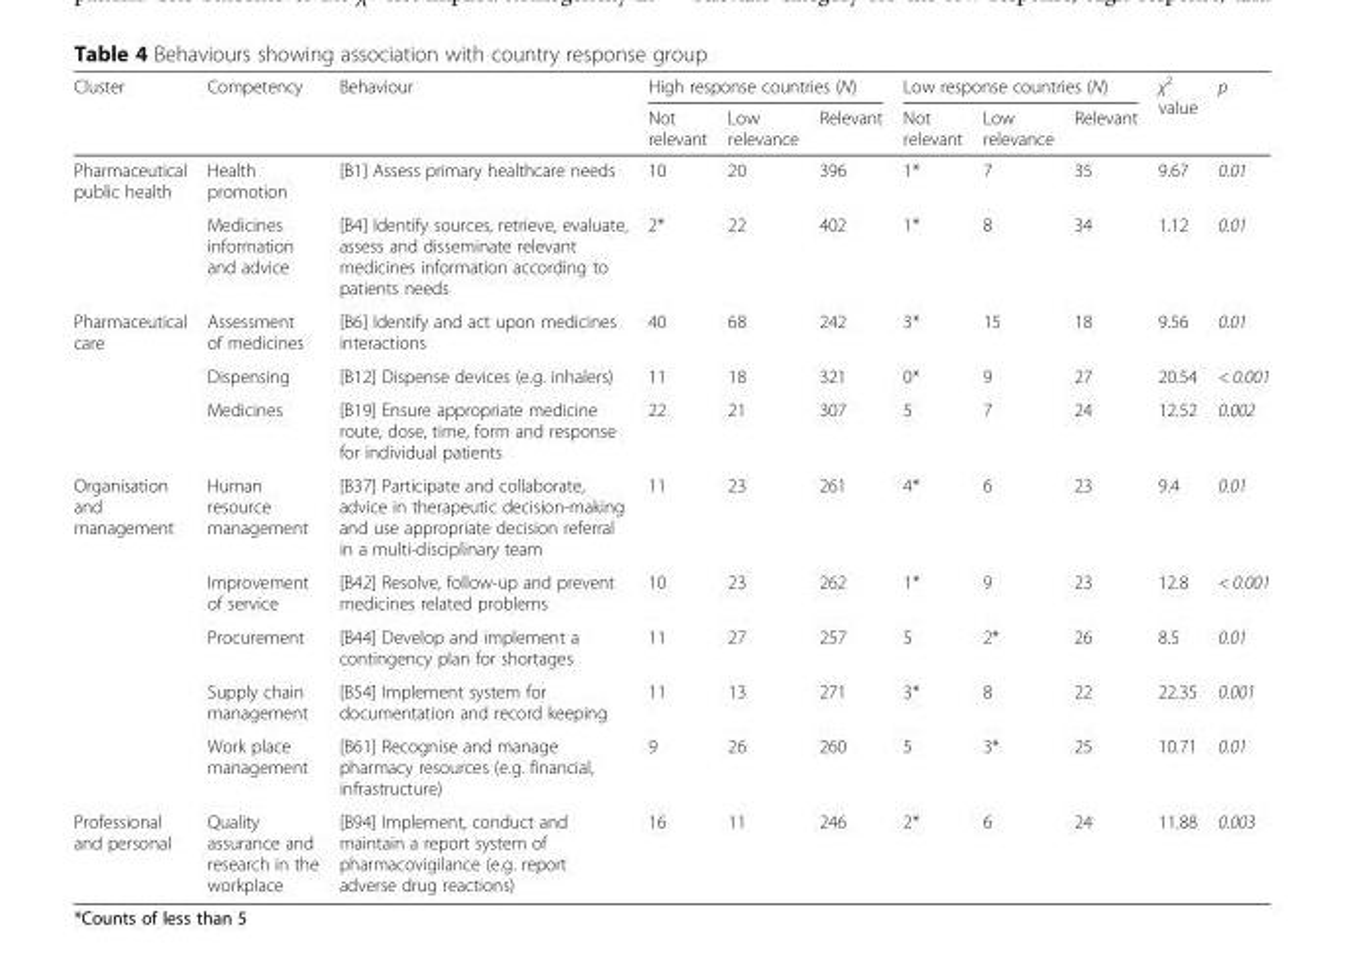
<table><thead><tr><td rowspan="2">Cluster</td><td rowspan="2">Competency</td><td rowspan="2">Behaviour</td><td colspan="3">High response countries (N)</td><td colspan="3">Low response countries (N)</td><td rowspan="2">χ<sup>2</sup> value</td><td rowspan="2">p</td></tr><tr><td>Not relevant</td><td>Low relevance</td><td>Relevant</td><td>Not relevant</td><td>Low relevance</td><td>Relevant</td></tr></thead><tbody><tr><td rowspan="2">Pharmaceutical public health</td><td>Health promotion</td><td>[B1] Assess primary healthcare needs</td><td>10</td><td>20</td><td>396</td><td>1*</td><td>7</td><td>35</td><td>9.67</td><td>0.01</td></tr><tr><td>Medicines information and advice</td><td>[B4] Identify sources, retrieve, evaluate, assess and disseminate relevant medicines information according to patients needs</td><td>2*</td><td>22</td><td>402</td><td>1*</td><td>8</td><td>34</td><td>1.12</td><td>0.01</td></tr><tr><td rowspan="3">Pharmaceutical care</td><td>Assessment of medicines</td><td>[B6] Identify and act upon medicines interactions</td><td>40</td><td>68</td><td>242</td><td>3*</td><td>15</td><td>18</td><td>9.56</td><td>0.01</td></tr><tr><td>Dispensing</td><td>[B12] Dispense devices (e.g. inhalers)</td><td>11</td><td>18</td><td>321</td><td>0*</td><td>9</td><td>27</td><td>20.54</td><td>&lt; 0.001</td></tr><tr><td>Medicines</td><td>[B19] Ensure appropriate medicine route, dose, time, form and response for individual patients</td><td>22</td><td>21</td><td>307</td><td>5</td><td>7</td><td>24</td><td>12.52</td><td>0.002</td></tr><tr><td rowspan="5">Organisation and management</td><td>Human resource management</td><td>[B37] Participate and collaborate, advice in therapeutic decision-making and use appropriate decision referral in a multi-disciplinary team</td><td>11</td><td>23</td><td>261</td><td>4*</td><td>6</td><td>23</td><td>9.4</td><td>0.01</td></tr><tr><td>Improvement of service</td><td>[B42] Resolve, follow-up and prevent medicines related problems</td><td>10</td><td>23</td><td>262</td><td>1*</td><td>9</td><td>23</td><td>12.8</td><td>&lt; 0.001</td></tr><tr><td>Procurement</td><td>[B44] Develop and implement a contingency plan for shortages</td><td>11</td><td>27</td><td>257</td><td>5</td><td>2*</td><td>26</td><td>8.5</td><td>0.01</td></tr><tr><td>Supply chain management</td><td>[B54] Implement system for documentation and record keeping</td><td>11</td><td>13</td><td>271</td><td>3*</td><td>8</td><td>22</td><td>22.35</td><td>0.001</td></tr><tr><td>Work place management</td><td>[B61] Recognise and manage pharmacy resources (e.g. financial, infrastructure)</td><td>9</td><td>26</td><td>260</td><td>5</td><td>3*</td><td>25</td><td>10.71</td><td>0.01</td></tr><tr><td>Professional and personal</td><td>Quality assurance and research in the workplace</td><td>[B94] Implement, conduct and maintain a report system of pharmacovigilance (e.g. report adverse drug reactions)</td><td>16</td><td>11</td><td>246</td><td>2*</td><td>6</td><td>24</td><td>11.88</td><td>0.003</td></tr></tbody></table>